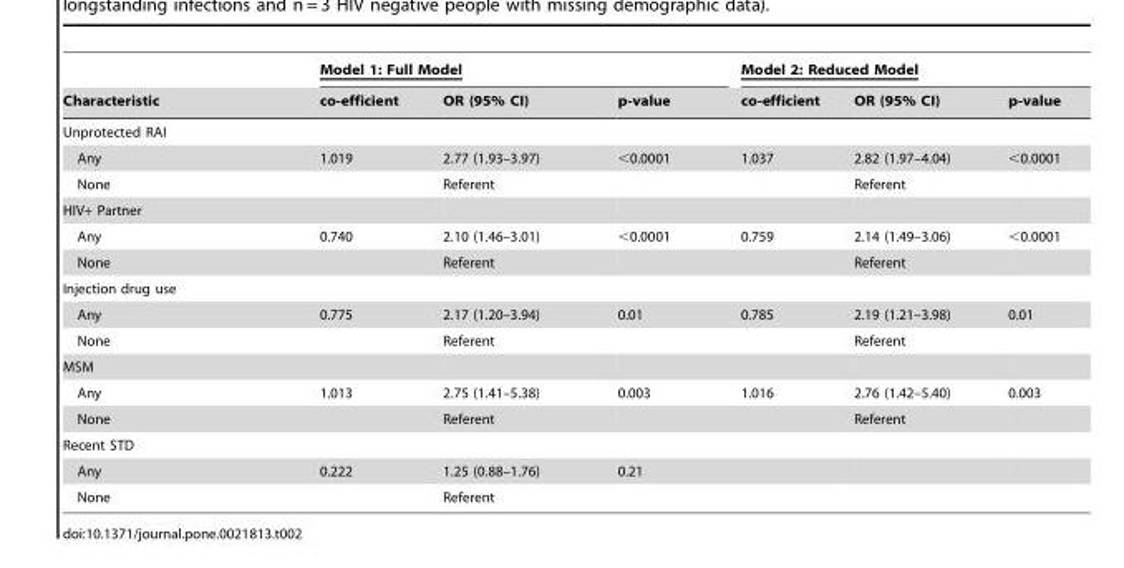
<table><thead><tr><td rowspan="2">Characteristic</td><td colspan="3">Model 1: Full Model</td><td colspan="3">Model 2: Reduced Model</td></tr><tr><td>co-efficient</td><td>OR (95% CI)</td><td>p-value</td><td>co-efficient</td><td>OR (95% CI)</td><td>p-value</td></tr></thead><tbody><tr><td colspan="7">Unprotected RAI</td></tr><tr><td>Any</td><td>1.019</td><td>2.77 (1.93–3.97)</td><td>&lt;0.0001</td><td>1.037</td><td>2.82 (1.97–4.04)</td><td>&lt;0.0001</td></tr><tr><td>None</td><td></td><td>Referent</td><td></td><td></td><td>Referent</td><td></td></tr><tr><td colspan="7">HIV+ Partner</td></tr><tr><td>Any</td><td>0.740</td><td>2.10 (1.46–3.01)</td><td>&lt;0.0001</td><td>0.759</td><td>2.14 (1.49–3.06)</td><td>&lt;0.0001</td></tr><tr><td>None</td><td></td><td>Referent</td><td></td><td></td><td>Referent</td><td></td></tr><tr><td colspan="7">Injection drug use</td></tr><tr><td>Any</td><td>0.775</td><td>2.17 (1.20–3.94)</td><td>0.01</td><td>0.785</td><td>2.19 (1.21–3.98)</td><td>0.01</td></tr><tr><td>None</td><td></td><td>Referent</td><td></td><td></td><td>Referent</td><td></td></tr><tr><td colspan="7">MSM</td></tr><tr><td>Any</td><td>1.013</td><td>2.75 (1.41–5.38)</td><td>0.003</td><td>1.016</td><td>2.76 (1.42–5.40)</td><td>0.003</td></tr><tr><td>None</td><td></td><td>Referent</td><td></td><td></td><td>Referent</td><td></td></tr><tr><td colspan="7">Recent STD</td></tr><tr><td>Any</td><td>0.222</td><td>1.25 (0.88–1.76)</td><td>0.21</td><td></td><td></td><td></td></tr><tr><td>None</td><td></td><td>Referent</td><td></td><td></td><td></td><td></td></tr></tbody></table>